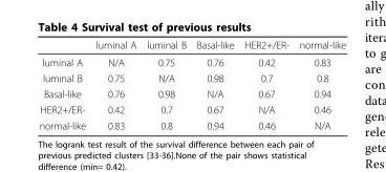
<table><thead><tr><td></td><td>luminal A</td><td>luminal B</td><td>Basal-like</td><td>HER2+/ER-</td><td>normal-like</td></tr></thead><tbody><tr><td>luminal A</td><td>N/A</td><td>0.75</td><td>0.76</td><td>0.42</td><td>0.83</td></tr><tr><td>luminal B</td><td>0.75</td><td>N/A</td><td>0.98</td><td>0.7</td><td>0.8</td></tr><tr><td>Basal-like</td><td>0.76</td><td>0.98</td><td>N/A</td><td>0.67</td><td>0.94</td></tr><tr><td>HER2+/ER-</td><td>0.42</td><td>0.7</td><td>0.67</td><td>N/A</td><td>0.46</td></tr><tr><td>normal-like</td><td>0.83</td><td>0.8</td><td>0.94</td><td>0.46</td><td>N/A</td></tr></tbody></table>